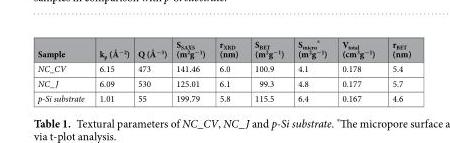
<table><thead><tr><td>Sample</td><td>k<sub>p</sub> (Å<sup>−2</sup>)</td><td>Q (Å<sup>−3</sup>)</td><td>S<sub>SAXS</sub> (m<sup>2</sup>g<sup>−1</sup>)</td><td>r<sub>XRD</sub> (nm)</td><td>S<sub>BET</sub> (m<sup>2</sup>g<sup>−1</sup>)</td><td>S<sub>micro</sub> * (m<sup>2</sup>g<sup>−1</sup>)</td><td>V<sub>total</sub> (cm<sup>3</sup>g<sup>−1</sup>)</td><td>r<sub>BET</sub> (nm)</td></tr></thead><tbody><tr><td>NC_CV</td><td>6.15</td><td>473</td><td>141.46</td><td>6.0</td><td>100.9</td><td>4.1</td><td>0.178</td><td>5.4</td></tr><tr><td>NC_ J</td><td>6.09</td><td>530</td><td>125.01</td><td>6.1</td><td>99.3</td><td>4.8</td><td>0.177</td><td>5.7</td></tr><tr><td>p-Si substrate</td><td>1.01</td><td>55</td><td>199.79</td><td>5.8</td><td>115.5</td><td>6.4</td><td>0.167</td><td>4.6</td></tr></tbody></table>